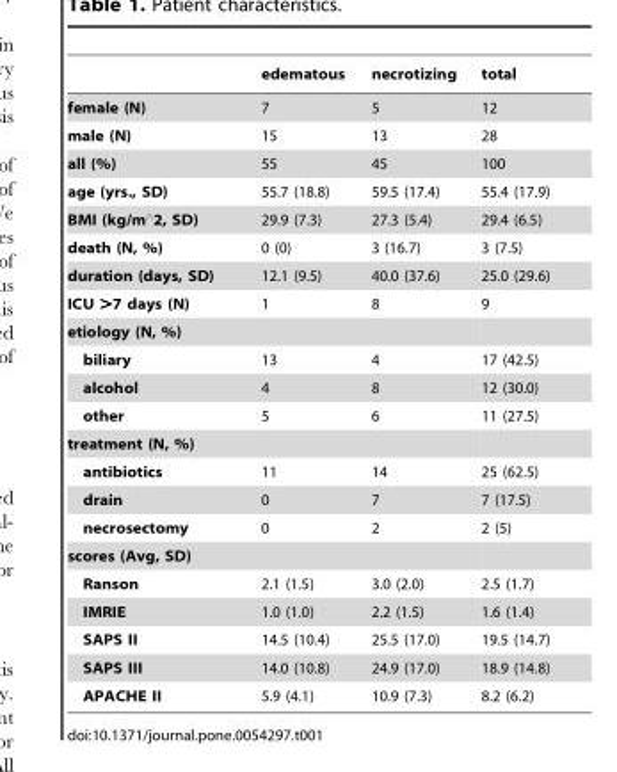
<table><thead><tr><td></td><td>edematous</td><td>necrotizing</td><td>total</td></tr></thead><tbody><tr><td>female (N)</td><td>7</td><td>5</td><td>12</td></tr><tr><td>male (N)</td><td>15</td><td>13</td><td>28</td></tr><tr><td>all (%)</td><td>55</td><td>45</td><td>100</td></tr><tr><td>age (yrs., SD)</td><td>55.7 (18.8)</td><td>59.5 (17.4)</td><td>55.4 (17.9)</td></tr><tr><td>BMI (kg/m‘2, SD)</td><td>29.9 (7.3)</td><td>27.3 (5.4)</td><td>29.4 (6.5)</td></tr><tr><td>death (N, %)</td><td>0 (0)</td><td>3 (16.7)</td><td>3 (7.5)</td></tr><tr><td>duration (days, SD)</td><td>12.1 (9.5)</td><td>40.0 (37.6)</td><td>25.0 (29.6)</td></tr><tr><td>ICU &gt;7 days (N)</td><td>1</td><td>8</td><td>9</td></tr><tr><td colspan="4">etiology (N, %)</td></tr><tr><td>biliary</td><td>13</td><td>4</td><td>17 (42.5)</td></tr><tr><td>alcohol</td><td>4</td><td>8</td><td>12 (30.0)</td></tr><tr><td>other</td><td>5</td><td>6</td><td>11 (27.5)</td></tr><tr><td colspan="4">treatment (N, %)</td></tr><tr><td>antibiotics</td><td>11</td><td>14</td><td>25 (62.5)</td></tr><tr><td>drain</td><td>0</td><td>7</td><td>7 (17.5)</td></tr><tr><td>necrosectomy</td><td>0</td><td>2</td><td>2 (5)</td></tr><tr><td colspan="4">scores (Avg, SD)</td></tr><tr><td>Ranson</td><td>2.1 (1.5)</td><td>3.0 (2.0)</td><td>2.5 (1.7)</td></tr><tr><td>IMRIE</td><td>1.0 (1.0)</td><td>2.2 (1.5)</td><td>1.6 (1.4)</td></tr><tr><td>SAPS II</td><td>14.5 (10.4)</td><td>25.5 (17.0)</td><td>19.5 (14.7)</td></tr><tr><td>SAPS III</td><td>14.0 (10.8)</td><td>24.9 (17.0)</td><td>18.9 (14.8)</td></tr><tr><td>APACHE II</td><td>5.9 (4.1)</td><td>10.9 (7.3)</td><td>8.2 (6.2)</td></tr></tbody></table>